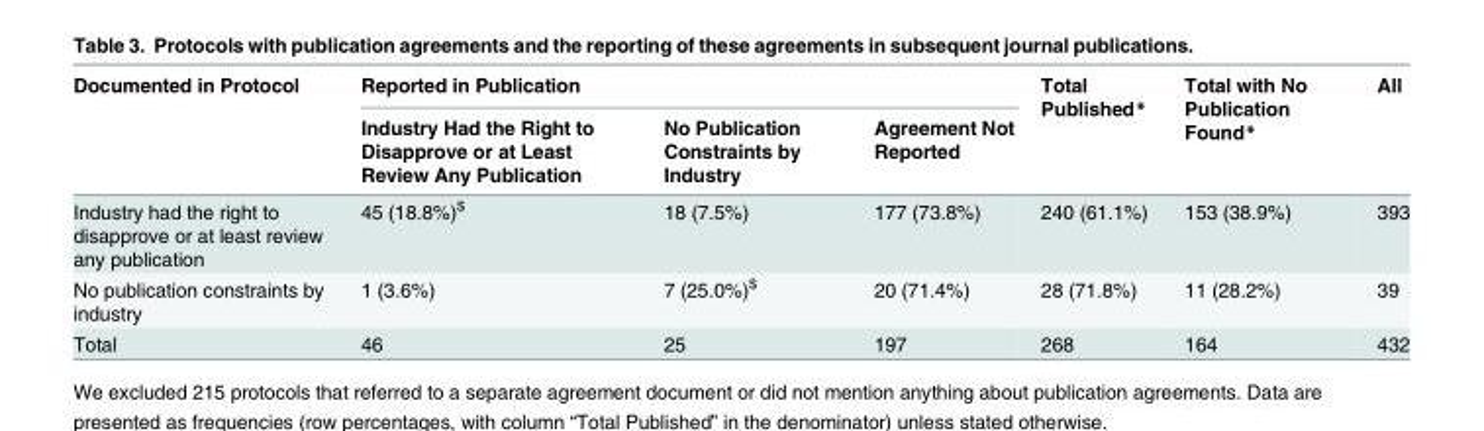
<table><thead><tr><td rowspan="2">Documented in Protocol</td><td colspan="3">Reported in Publication</td><td rowspan="2">Total Published*</td><td rowspan="2">Total with No Publication Found*</td><td rowspan="2">All</td></tr><tr><td>Industry Had the Right to Disapprove or at Least Review Any Publication</td><td>No Publication Constraints by Industry</td><td>Agreement Not Reported</td></tr></thead><tbody><tr><td>Industry had the right to disapprove or at least review any publication</td><td>45 (18.8%)<sup>$</sup></td><td>18 (7.5%)</td><td>177 (73.8%)</td><td>240 (61.1%)</td><td>153 (38.9%)</td><td>393</td></tr><tr><td>No publication constraints by industry</td><td>1 (3.6%)</td><td>7 (25.0%)<sup>$</sup></td><td>20 (71.4%)</td><td>28 (71.8%)</td><td>11 (28.2%)</td><td>39</td></tr><tr><td>Total</td><td>46</td><td>25</td><td>197</td><td>268</td><td>164</td><td>432</td></tr></tbody></table>